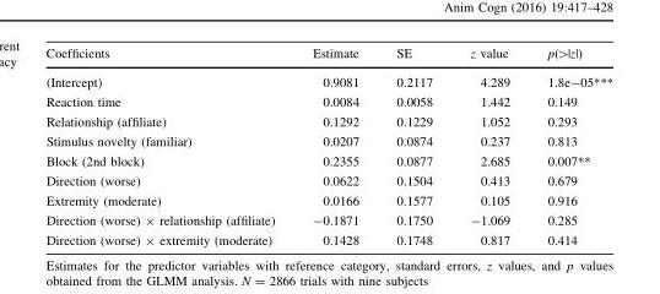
<table><thead><tr><td>Coefficients</td><td>Estimate</td><td>SE</td><td>z value</td><td>p(&gt;|z|)</td></tr></thead><tbody><tr><td>(Intercept)</td><td>0.9081</td><td>0.2117</td><td>4.289</td><td>1.8e-05***</td></tr><tr><td>Reaction time</td><td>0.0084</td><td>0.0058</td><td>1.442</td><td>0.149</td></tr><tr><td>Relationship (affiliate)</td><td>0.1292</td><td>0.1229</td><td>1.052</td><td>0.293</td></tr><tr><td>Stimulus novelty (familiar)</td><td>0.0207</td><td>0.0874</td><td>0.237</td><td>0.813</td></tr><tr><td>Block (2nd block)</td><td>0.2355</td><td>0.0877</td><td>2.685</td><td>0.007**</td></tr><tr><td>Direction (worse)</td><td>0.0622</td><td>0.1504</td><td>0.413</td><td>0.679</td></tr><tr><td>Extremity (moderate)</td><td>0.0166</td><td>0.1577</td><td>0.105</td><td>0.916</td></tr><tr><td>Direction (worse) × relationship (affiliate)</td><td>-0.1871</td><td>0.1750</td><td>-1.069</td><td>0.285</td></tr><tr><td>Direction (worse) × extremity (moderate)</td><td>0.1428</td><td>0.1748</td><td>0.817</td><td>0.414</td></tr></tbody></table>